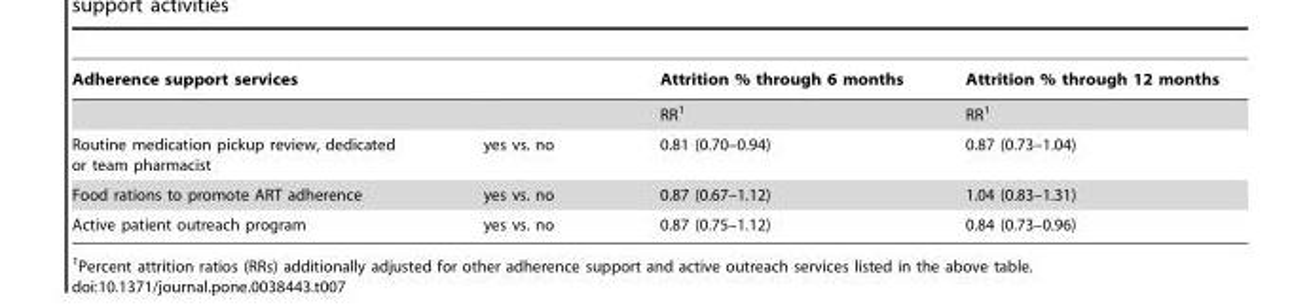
<table><thead><tr><td>Adherence support services</td><td></td><td>Attrition % through 6 months</td><td>Attrition % through 12 months</td></tr></thead><tbody><tr><td></td><td></td><td>RR<sup>1</sup></td><td>RR<sup>1</sup></td></tr><tr><td>Routine medication pickup review, dedicated or team pharmacist</td><td>yes vs. no</td><td>0.81 (0.70–0.94)</td><td>0.87 (0.73–1.04)</td></tr><tr><td>Food rations to promote ART adherence</td><td>yes vs. no</td><td>0.87 (0.67–1.12)</td><td>1.04 (0.83–1.31)</td></tr><tr><td>Active patient outreach program</td><td>yes vs. no</td><td>0.87 (0.75–1.12)</td><td>0.84 (0.73–0.96)</td></tr></tbody></table>